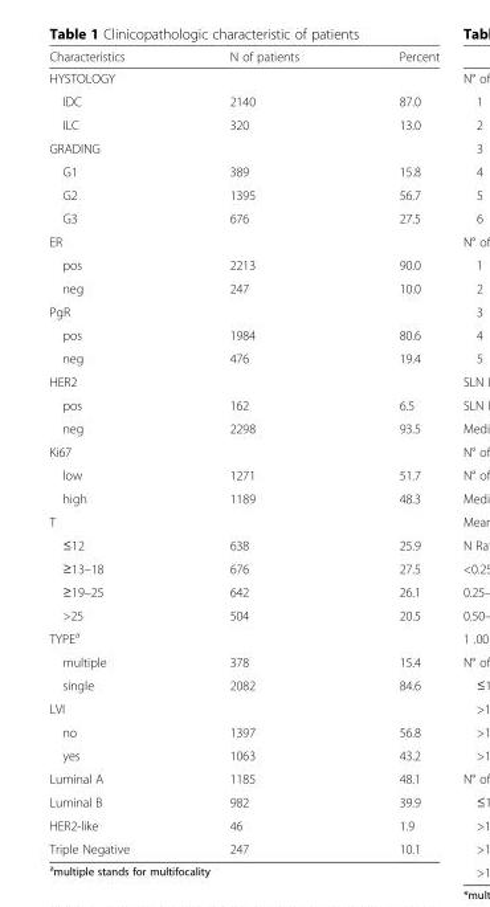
<table><thead><tr><td>Characteristics</td><td>N of patients</td><td>Percent</td></tr></thead><tbody><tr><td colspan="3">HYSTOLOGY</td></tr><tr><td>IDC</td><td>2140</td><td>87.0</td></tr><tr><td>ILC</td><td>320</td><td>13.0</td></tr><tr><td colspan="3">GRADING</td></tr><tr><td>G1</td><td>389</td><td>15.8</td></tr><tr><td>G2</td><td>1395</td><td>56.7</td></tr><tr><td>G3</td><td>676</td><td>27.5</td></tr><tr><td colspan="3">ER</td></tr><tr><td>pos</td><td>2213</td><td>90.0</td></tr><tr><td>neg</td><td>247</td><td>10.0</td></tr><tr><td colspan="3">PgR</td></tr><tr><td>pos</td><td>1984</td><td>80.6</td></tr><tr><td>neg</td><td>476</td><td>19.4</td></tr><tr><td colspan="3">HER2</td></tr><tr><td>pos</td><td>162</td><td>6.5</td></tr><tr><td>neg</td><td>2298</td><td>93.5</td></tr><tr><td colspan="3">Ki67</td></tr><tr><td>low</td><td>1271</td><td>51.7</td></tr><tr><td>high</td><td>1189</td><td>48.3</td></tr><tr><td colspan="3">T</td></tr><tr><td>≤12</td><td>638</td><td>25.9</td></tr><tr><td>≥13–18</td><td>676</td><td>27.5</td></tr><tr><td>≥19–25</td><td>642</td><td>26.1</td></tr><tr><td>&gt;25</td><td>504</td><td>20.5</td></tr><tr><td colspan="3">TYPE<sup>a</sup></td></tr><tr><td>multiple</td><td>378</td><td>15.4</td></tr><tr><td>single</td><td>2082</td><td>84.6</td></tr><tr><td colspan="3">LVI</td></tr><tr><td>no</td><td>1397</td><td>56.8</td></tr><tr><td>yes</td><td>1063</td><td>43.2</td></tr><tr><td>Luminal A</td><td>1185</td><td>48.1</td></tr><tr><td>Luminal B</td><td>982</td><td>39.9</td></tr><tr><td>HER2-like</td><td>46</td><td>1.9</td></tr><tr><td>Triple Negative</td><td>247</td><td>10.1</td></tr></tbody></table>